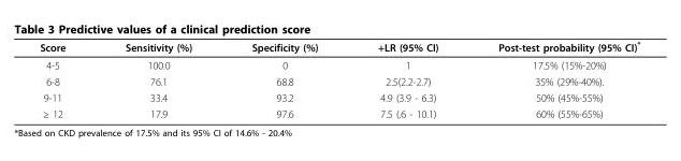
<table><thead><tr><td>Score</td><td>Sensitivity (%)</td><td>Specificity (%)</td><td>+LR (95% CI)</td><td>Post-test probability (95% CI)*</td></tr></thead><tbody><tr><td>4-5</td><td>100.0</td><td>0</td><td>1</td><td>17.5% (15%-20%)</td></tr><tr><td>6-8</td><td>76.1</td><td>68.8</td><td>2.5(2.2-2.7)</td><td>35% (29%-40%).</td></tr><tr><td>9-11</td><td>33.4</td><td>93.2</td><td>4.9 (3.9 - 6.3)</td><td>50% (45%-55%)</td></tr><tr><td>≥ 12</td><td>17.9</td><td>97.6</td><td>7.5 (.6 - 10.1)</td><td>60% (55%-65%)</td></tr></tbody></table>